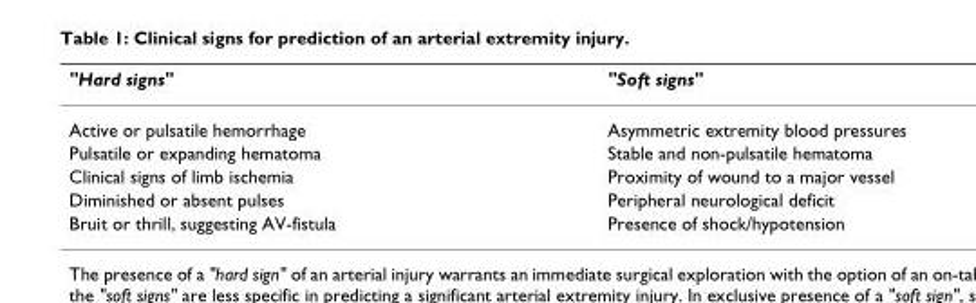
<table><thead><tr><td>&quot;Hard signs&quot;</td><td>&quot;Soft signs&quot;</td></tr></thead><tbody><tr><td>Active or pulsatile hemorrhage</td><td>Asymmetric extremity blood pressures</td></tr><tr><td>Pulsatile or expanding hematoma</td><td>Stable and non-pulsatile hematoma</td></tr><tr><td>Clinical signs of limb ischemia</td><td>Proximity of wound to a major vessel</td></tr><tr><td>Diminished or absent pulses</td><td>Peripheral neurological deficit</td></tr><tr><td>Bruit or thrill, suggesting AV-fistula</td><td>Presence of shock/hypotension</td></tr></tbody></table>